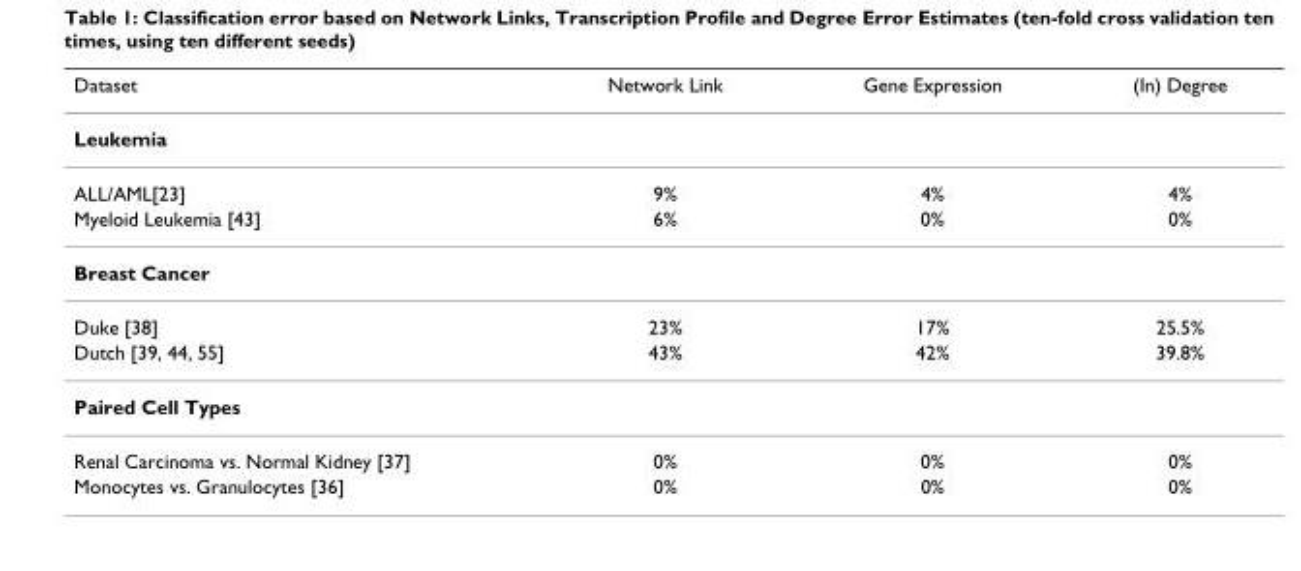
<table><thead><tr><td>Dataset</td><td>Network Link</td><td>Gene Expression</td><td>(In) Degree</td></tr></thead><tbody><tr><td colspan="4">Leukemia</td></tr><tr><td>ALL/AML[23]</td><td>9%</td><td>4%</td><td>4%</td></tr><tr><td>Myeloid Leukemia [43]</td><td>6%</td><td>0%</td><td>0%</td></tr><tr><td colspan="4">Breast Cancer</td></tr><tr><td>Duke [38]</td><td>23%</td><td>17%</td><td>25.5%</td></tr><tr><td>Dutch [39, 44, 55]</td><td>43%</td><td>42%</td><td>39.8%</td></tr><tr><td colspan="4">Paired Cell Types</td></tr><tr><td>Renal Carcinoma vs. Normal Kidney [37]</td><td>0%</td><td>0%</td><td>0%</td></tr><tr><td>Monocytes vs. Granulocytes [36]</td><td>0%</td><td>0%</td><td>0%</td></tr></tbody></table>